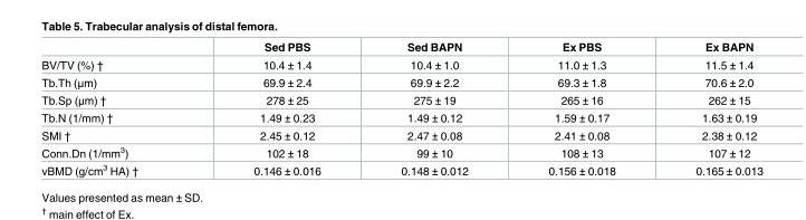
<table><thead><tr><td></td><td>Sed PBS</td><td>Sed BAPN</td><td>Ex PBS</td><td>Ex BAPN</td></tr></thead><tbody><tr><td>BV/TV (%) †</td><td>10.4 ± 1.4</td><td>10.4 ± 1.0</td><td>11.0 ± 1.3</td><td>11.5 ± 1.4</td></tr><tr><td>Tb.Th (μm)</td><td>69.9 ± 2.4</td><td>69.9 ± 2.2</td><td>69.3 ± 1.8</td><td>70.6 ± 2.0</td></tr><tr><td>Tb.Sp (μm) †</td><td>278 ± 25</td><td>275 ± 19</td><td>265 ± 16</td><td>262 ± 15</td></tr><tr><td>Tb.N (1/mm) †</td><td>1.49 ± 0.23</td><td>1.49 ± 0.12</td><td>1.59 ± 0.17</td><td>1.63 ± 0.19</td></tr><tr><td>SMI †</td><td>2.45 ± 0.12</td><td>2.47 ± 0.08</td><td>2.41 ± 0.08</td><td>2.38 ± 0.12</td></tr><tr><td>Conn.Dn (1/mm<sup>3</sup>)</td><td>102 ± 18</td><td>99 ± 10</td><td>108 ± 13</td><td>107 ± 12</td></tr><tr><td>vBMD (g/cm<sup>3</sup> HA) †</td><td>0.146 ± 0.016</td><td>0.148 ± 0.012</td><td>0.156 ± 0.018</td><td>0.165 ± 0.013</td></tr></tbody></table>